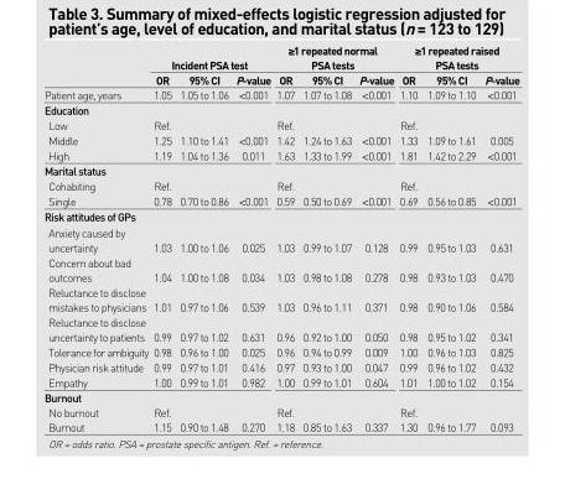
<table><thead><tr><td rowspan="2"></td><td colspan="3">Incident PSA test</td><td colspan="3">≥1 repeated normal PSA tests</td><td colspan="3">≥1 repeated raised PSA tests</td></tr><tr><td>OR</td><td>95% CI</td><td>P-value</td><td>OR</td><td>95% CI</td><td>P-value</td><td>OR</td><td>95% CI</td><td>P-value</td></tr></thead><tbody><tr><td>Patient age, years</td><td>1.05</td><td>1.05 to 1.06</td><td>&lt;0.001</td><td>1.07</td><td>1.07 to 1.08</td><td>&lt;0.001</td><td>1.10</td><td>1.09 to 1.10</td><td>&lt;0.001</td></tr><tr><td colspan="10">Education</td></tr><tr><td>Low</td><td colspan="3">Ref.</td><td colspan="3">Ref.</td><td colspan="3">Ref.</td></tr><tr><td>Middle</td><td>1.25</td><td>1.10 to 1.41</td><td>&lt;0.001</td><td>1.42</td><td>1.24 to 1.63</td><td>&lt;0.001</td><td>1.33</td><td>1.09 to 1.61</td><td>0.005</td></tr><tr><td>High</td><td>1.19</td><td>1.04 to 1.36</td><td>0.011</td><td>1.63</td><td>1.33 to 1.99</td><td>&lt;0.001</td><td>1.81</td><td>1.42 to 2.29</td><td>&lt;0.001</td></tr><tr><td colspan="10">Marital status</td></tr><tr><td>Cohabiting</td><td colspan="3">Ref.</td><td colspan="3">Ref.</td><td colspan="3">Ref.</td></tr><tr><td>Single</td><td>0.78</td><td>0.70 to 0.86</td><td>&lt;0.001</td><td>0.59</td><td>0.50 to 0.69</td><td>&lt;0.001</td><td>0.69</td><td>0.56 to 0.85</td><td>&lt;0.001</td></tr><tr><td colspan="10">Risk attitudes of GPs</td></tr><tr><td>Anxiety caused by uncertainty</td><td>1.03</td><td>1.00 to 1.06</td><td>0.025</td><td>1.03</td><td>0.99 to 1.07</td><td>0.128</td><td>0.99</td><td>0.95 to 1.03</td><td>0.631</td></tr><tr><td>Concern about bad outcomes</td><td>1.04</td><td>1.00 to 1.08</td><td>0.034</td><td>1.03</td><td>0.98 to 1.08</td><td>0.278</td><td>0.98</td><td>0.93 to 1.03</td><td>0.470</td></tr><tr><td>Reluctance to disclose mistakes to physicians</td><td>1.01</td><td>0.97 to 1.06</td><td>0.539</td><td>1.03</td><td>0.96 to 1.11</td><td>0.371</td><td>0.98</td><td>0.90 to 1.06</td><td>0.584</td></tr><tr><td>Reluctance to disclose uncertainty to patients</td><td>0.99</td><td>0.97 to 1.02</td><td>0.631</td><td>0.96</td><td>0.92 to 1.00</td><td>0.050</td><td>0.98</td><td>0.95 to 1.02</td><td>0.341</td></tr><tr><td>Tolerance for ambiguity</td><td>0.98</td><td>0.96 to 1.00</td><td>0.025</td><td>0.96</td><td>0.94 to 0.99</td><td>0.009</td><td>1.00</td><td>0.96 to 1.03</td><td>0.825</td></tr><tr><td>Physician risk attitude</td><td>0.99</td><td>0.97 to 1.01</td><td>0.416</td><td>0.97</td><td>0.93 to 1.00</td><td>0.047</td><td>0.99</td><td>0.96 to 1.02</td><td>0.432</td></tr><tr><td>Empathy</td><td>1.00</td><td>0.99 to 1.01</td><td>0.982</td><td>1.00</td><td>0.99 to 1.01</td><td>0.604</td><td>1.01</td><td>1.00 to 1.02</td><td>0.154</td></tr><tr><td colspan="10">Burnout</td></tr><tr><td>No burnout</td><td colspan="3">Ref.</td><td colspan="3">Ref.</td><td colspan="3">Ref.</td></tr><tr><td>Burnout</td><td>1.15</td><td>0.90 to 1.48</td><td>0.270</td><td>1.18</td><td>0.85 to 1.63</td><td>0.337</td><td>1.30</td><td>0.96 to 1.77</td><td>0.093</td></tr></tbody></table>